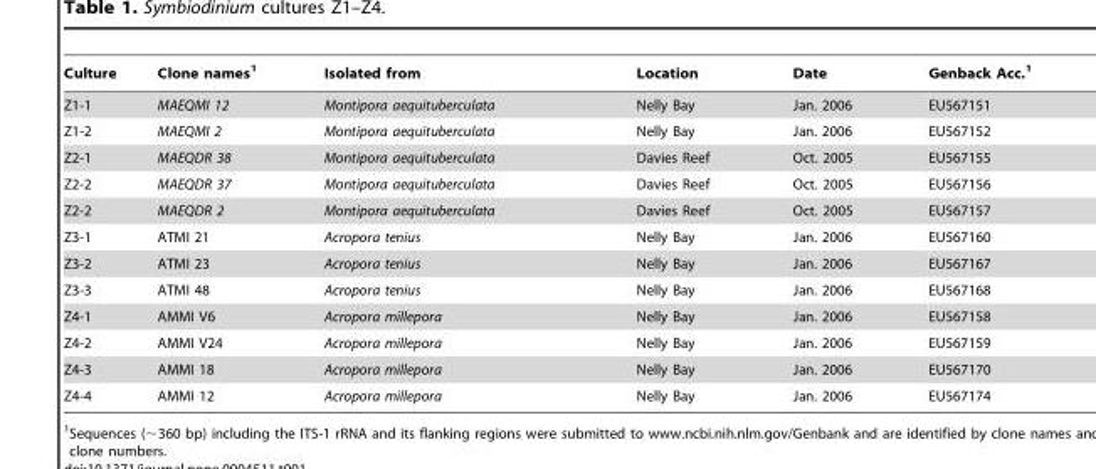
<table><thead><tr><td>Culture</td><td>Clone names<sup>1</sup></td><td>Isolated from</td><td>Location</td><td>Date</td><td>Genback Acc.<sup>1</sup></td></tr></thead><tbody><tr><td>Z1-1</td><td>MAEQMI 12</td><td>Montipora aequituberculata</td><td>Nelly Bay</td><td>Jan. 2006</td><td>EU567151</td></tr><tr><td>Z1-2</td><td>MAEQMI 2</td><td>Montipora aequituberculata</td><td>Nelly Bay</td><td>Jan. 2006</td><td>EU567152</td></tr><tr><td>Z2-1</td><td>MAEQDR 38</td><td>Montipora aequituberculata</td><td>Davies Reef</td><td>Oct. 2005</td><td>EU567155</td></tr><tr><td>Z2-2</td><td>MAEQDR 37</td><td>Montipora aequituberculata</td><td>Davies Reef</td><td>Oct. 2005</td><td>EU567156</td></tr><tr><td>Z2-2</td><td>MAEQDR 2</td><td>Montipora aequituberculata</td><td>Davies Reef</td><td>Oct. 2005</td><td>EU567157</td></tr><tr><td>Z3-1</td><td>ATMI 21</td><td>Acropora tenius</td><td>Nelly Bay</td><td>Jan. 2006</td><td>EU567160</td></tr><tr><td>Z3-2</td><td>ATMI 23</td><td>Acropora tenius</td><td>Nelly Bay</td><td>Jan. 2006</td><td>EU567167</td></tr><tr><td>Z3-3</td><td>ATMI 48</td><td>Acropora tenius</td><td>Nelly Bay</td><td>Jan. 2006</td><td>EU567168</td></tr><tr><td>Z4-1</td><td>AMMI V6</td><td>Acropora millepora</td><td>Nelly Bay</td><td>Jan. 2006</td><td>EU567158</td></tr><tr><td>Z4-2</td><td>AMMI V24</td><td>Acropora millepora</td><td>Nelly Bay</td><td>Jan. 2006</td><td>EU567159</td></tr><tr><td>Z4-3</td><td>AMMI 18</td><td>Acropora millepora</td><td>Nelly Bay</td><td>Jan. 2006</td><td>EU567170</td></tr><tr><td>Z4-4</td><td>AMMI 12</td><td>Acropora millepora</td><td>Nelly Bay</td><td>Jan. 2006</td><td>EU567174</td></tr></tbody></table>